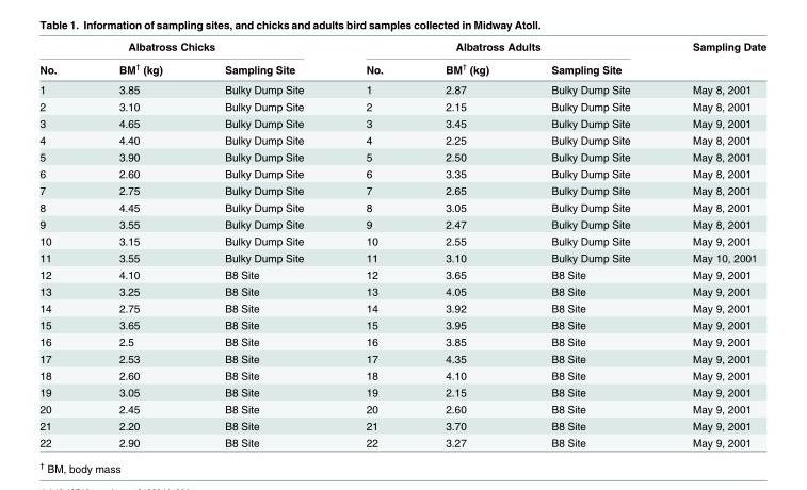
<table><thead><tr><td colspan="3">Albatross Chicks</td><td colspan="3">Albatross Adults</td><td rowspan="2">Sampling Date</td></tr><tr><td>No.</td><td>BM<sup>†</sup> (kg)</td><td>Sampling Site</td><td>No.</td><td>BM<sup>†</sup> (kg)</td><td>Sampling Site</td></tr></thead><tbody><tr><td>1</td><td>3.85</td><td>Bulky Dump Site</td><td>1</td><td>2.87</td><td>Bulky Dump Site</td><td>May 8, 2001</td></tr><tr><td>2</td><td>3.10</td><td>Bulky Dump Site</td><td>2</td><td>2.15</td><td>Bulky Dump Site</td><td>May 8, 2001</td></tr><tr><td>3</td><td>4.65</td><td>Bulky Dump Site</td><td>3</td><td>3.45</td><td>Bulky Dump Site</td><td>May 9, 2001</td></tr><tr><td>4</td><td>4.40</td><td>Bulky Dump Site</td><td>4</td><td>2.25</td><td>Bulky Dump Site</td><td>May 8, 2001</td></tr><tr><td>5</td><td>3.90</td><td>Bulky Dump Site</td><td>5</td><td>2.50</td><td>Bulky Dump Site</td><td>May 8, 2001</td></tr><tr><td>6</td><td>2.60</td><td>Bulky Dump Site</td><td>6</td><td>3.35</td><td>Bulky Dump Site</td><td>May 8, 2001</td></tr><tr><td>7</td><td>2.75</td><td>Bulky Dump Site</td><td>7</td><td>2.65</td><td>Bulky Dump Site</td><td>May 8, 2001</td></tr><tr><td>8</td><td>4.45</td><td>Bulky Dump Site</td><td>8</td><td>3.05</td><td>Bulky Dump Site</td><td>May 8, 2001</td></tr><tr><td>9</td><td>3.55</td><td>Bulky Dump Site</td><td>9</td><td>2.47</td><td>Bulky Dump Site</td><td>May 8, 2001</td></tr><tr><td>10</td><td>3.15</td><td>Bulky Dump Site</td><td>10</td><td>2.55</td><td>Bulky Dump Site</td><td>May 9, 2001</td></tr><tr><td>11</td><td>3.55</td><td>Bulky Dump Site</td><td>11</td><td>3.10</td><td>Bulky Dump Site</td><td>May 10, 2001</td></tr><tr><td>12</td><td>4.10</td><td>B8 Site</td><td>12</td><td>3.65</td><td>B8 Site</td><td>May 9, 2001</td></tr><tr><td>13</td><td>3.25</td><td>B8 Site</td><td>13</td><td>4.05</td><td>B8 Site</td><td>May 9, 2001</td></tr><tr><td>14</td><td>2.75</td><td>B8 Site</td><td>14</td><td>3.92</td><td>B8 Site</td><td>May 9, 2001</td></tr><tr><td>15</td><td>3.65</td><td>B8 Site</td><td>15</td><td>3.95</td><td>B8 Site</td><td>May 9, 2001</td></tr><tr><td>16</td><td>2.5</td><td>B8 Site</td><td>16</td><td>3.85</td><td>B8 Site</td><td>May 9, 2001</td></tr><tr><td>17</td><td>2.53</td><td>B8 Site</td><td>17</td><td>4.35</td><td>B8 Site</td><td>May 9, 2001</td></tr><tr><td>18</td><td>2.60</td><td>B8 Site</td><td>18</td><td>4.10</td><td>B8 Site</td><td>May 9, 2001</td></tr><tr><td>19</td><td>3.05</td><td>B8 Site</td><td>19</td><td>2.15</td><td>B8 Site</td><td>May 9, 2001</td></tr><tr><td>20</td><td>2.45</td><td>B8 Site</td><td>20</td><td>2.60</td><td>B8 Site</td><td>May 9, 2001</td></tr><tr><td>21</td><td>2.20</td><td>B8 Site</td><td>21</td><td>3.70</td><td>B8 Site</td><td>May 9, 2001</td></tr><tr><td>22</td><td>2.90</td><td>B8 Site</td><td>22</td><td>3.27</td><td>B8 Site</td><td>May 9, 2001</td></tr></tbody></table>